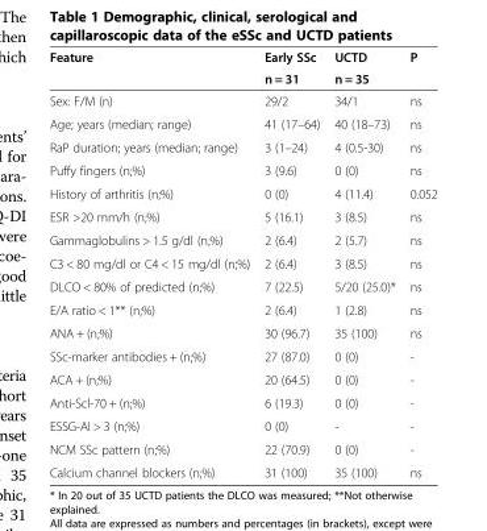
<table><thead><tr><td rowspan="2">Feature</td><td rowspan="2">Early SSc n = 31</td><td rowspan="2">UCTD n = 35</td><td rowspan="2">P</td></tr><tr></tr></thead><tbody><tr><td>Sex: F/M (n)</td><td>29/2</td><td>34/1</td><td>ns</td></tr><tr><td>Age; years (median; range)</td><td>41 (17–64)</td><td>40 (18–73)</td><td>ns</td></tr><tr><td>RaP duration; years (median; range)</td><td>3 (1–24)</td><td>4 (0.5-30)</td><td>ns</td></tr><tr><td>Puffy fingers (n;%)</td><td>3 (9.6)</td><td>0 (0)</td><td>ns</td></tr><tr><td>History of arthritis (n;%)</td><td>0 (0)</td><td>4 (11.4)</td><td>0.052</td></tr><tr><td>ESR &gt;20 mm/h (n;%)</td><td>5 (16.1)</td><td>3 (8.5)</td><td>ns</td></tr><tr><td>Gammaglobulins &gt; 1.5 g/dl (n;%)</td><td>2 (6.4)</td><td>2 (5.7)</td><td>ns</td></tr><tr><td>C3 &lt; 80 mg/dl or C4 &lt; 15 mg/dl (n;%)</td><td>2 (6.4)</td><td>3 (8.5)</td><td>ns</td></tr><tr><td>DLCO &lt; 80% of predicted (n;%)</td><td>7 (22.5)</td><td>5/20 (25.0)*</td><td>ns</td></tr><tr><td>E/A ratio &lt; 1** (n;%)</td><td>2 (6.4)</td><td>1 (2.8)</td><td>ns</td></tr><tr><td>ANA + (n;%)</td><td>30 (96.7)</td><td>35 (100)</td><td>ns</td></tr><tr><td>SSc-marker antibodies + (n;%)</td><td>27 (87.0)</td><td>0 (0)</td><td>-</td></tr><tr><td>ACA + (n;%)</td><td>20 (64.5)</td><td>0 (0)</td><td>-</td></tr><tr><td>Anti-Scl-70 + (n;%)</td><td>6 (19.3)</td><td>0 (0)</td><td>-</td></tr><tr><td>ESSG-AI &gt; 3 (n;%)</td><td>0 (0)</td><td>-</td><td>-</td></tr><tr><td>NCM SSc pattern (n;%)</td><td>22 (70.9)</td><td>0 (0)</td><td>-</td></tr><tr><td>Calcium channel blockers (n;%)</td><td>31 (100)</td><td>35 (100)</td><td>ns</td></tr></tbody></table>